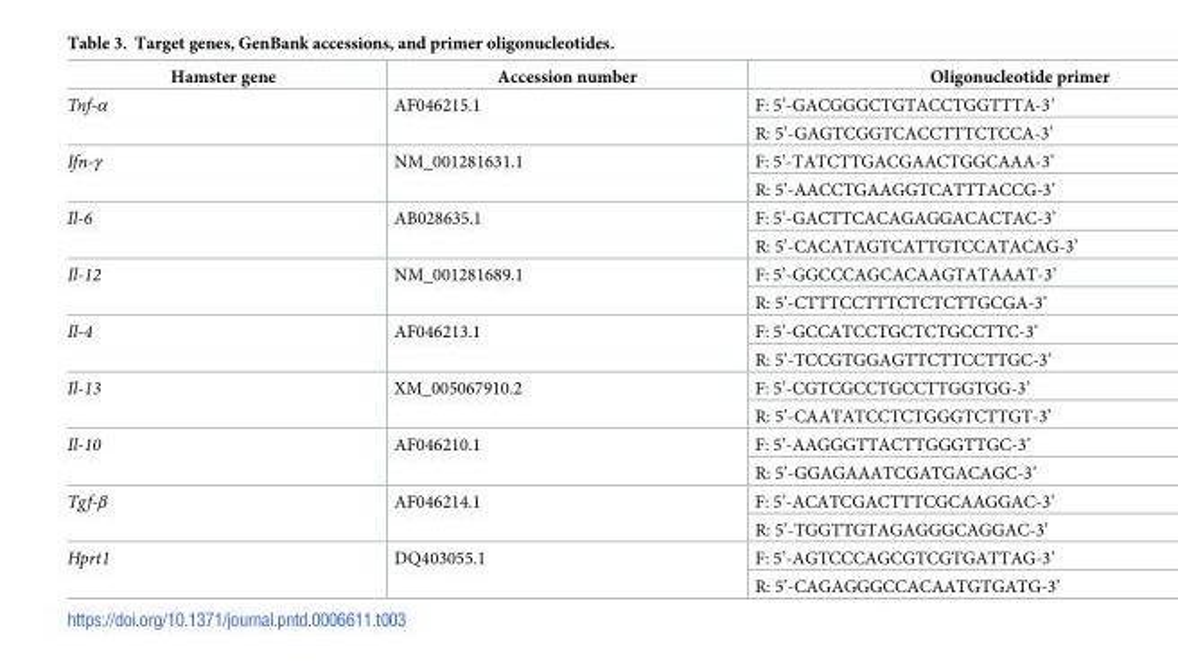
<table><thead><tr><td>Hamster gene</td><td>Accession number</td><td>Oligonucleotide primer</td></tr></thead><tbody><tr><td rowspan="2">Tnf-α</td><td rowspan="2">AF046215.1</td><td>F: 5’-GACGGGCTGTACCTGGTTTA-3’</td></tr><tr><td>R: 5’-GAGTCGGTCACCTTTCTCCA-3’</td></tr><tr><td rowspan="2">Ifn-γ</td><td rowspan="2">NM_001281631.1</td><td>F: 5’-TATCTTGACGAACTGGCAAA-3’</td></tr><tr><td>R: 5’-AACCTGAAGGTCATTTACCG-3’</td></tr><tr><td rowspan="2">Il-6</td><td rowspan="2">AB028635.1</td><td>F: 5’-GACTTCACAGAGGACACTAC-3’</td></tr><tr><td>R: 5’-CACATAGTCATTGTCCATACAG-3’</td></tr><tr><td rowspan="2">Il-12</td><td rowspan="2">NM_001281689.1</td><td>F: 5’-GGCCCAGCACAAGTATAAAT-3’</td></tr><tr><td>R: 5’-CTTTCCTTTCTCTCTTGCGA-3’</td></tr><tr><td rowspan="2">Il-4</td><td rowspan="2">AF046213.1</td><td>F: 5’-GCCATCCTGCTCTGCCTTC-3’</td></tr><tr><td>R: 5’-TCCGTGGAGTTCTTCCTTGC-3’</td></tr><tr><td rowspan="2">Il-13</td><td rowspan="2">XM_005067910.2</td><td>F: 5’-CGTCGCCTGCCTTGGTGG-3’</td></tr><tr><td>R: 5’-CAATATCCTCTGGGTCTTGT-3’</td></tr><tr><td rowspan="2">Il-10</td><td rowspan="2">AF046210.1</td><td>F: 5’-AAGGGTTACTTGGGTTGC-3’</td></tr><tr><td>R: 5’-GGAGAAATCGATGACAGC-3’</td></tr><tr><td rowspan="2">Tgf-β</td><td rowspan="2">AF046214.1</td><td>F: 5’-ACATCGACTTTCGCAAGGAC-3’</td></tr><tr><td>R: 5’-TGGTTGTAGAGGGCAGGAC-3’</td></tr><tr><td rowspan="2">Hprt1</td><td rowspan="2">DQ403055.1</td><td>F: 5’-AGTCCCAGCGTCGTGATTAG-3’</td></tr><tr><td>R: 5’-CAGAGGGCCACAATGTGATG-3’</td></tr></tbody></table>